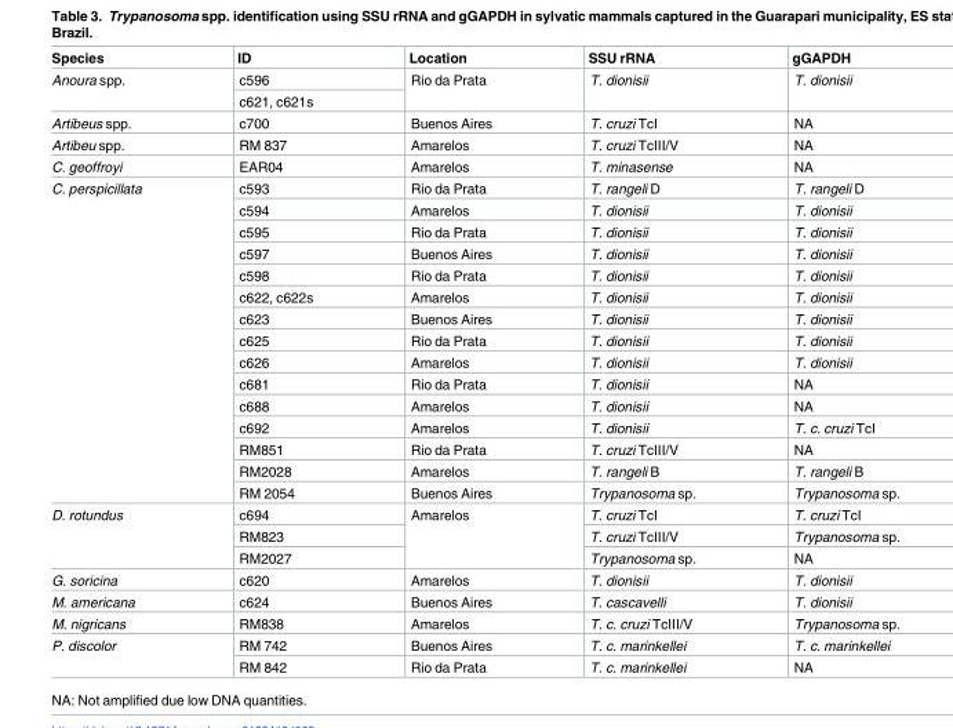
<table><thead><tr><td>Species</td><td>ID</td><td>Location</td><td>SSU rRNA</td><td>gGAPDH</td></tr></thead><tbody><tr><td rowspan="2">Anoura spp.</td><td>c596</td><td rowspan="2">Rio da Prata</td><td rowspan="2">T. dionisii</td><td rowspan="2">T. dionisii</td></tr><tr><td>c621, c621s</td></tr><tr><td>Artibeus spp.</td><td>c700</td><td>Buenos Aires</td><td>T. cruzi TcI</td><td>NA</td></tr><tr><td>Artibeu spp.</td><td>RM 837</td><td>Amarelos</td><td>T. cruzi TcIII/V</td><td>NA</td></tr><tr><td>C. geoffroyi</td><td>EAR04</td><td>Amarelos</td><td>T. minasense</td><td>NA</td></tr><tr><td rowspan="15">C. perspicillata</td><td>c593</td><td>Rio da Prata</td><td>T. rangeli D</td><td>T. rangeli D</td></tr><tr><td>c594</td><td>Amarelos</td><td>T. dionisii</td><td>T. dionisii</td></tr><tr><td>c595</td><td>Rio da Prata</td><td>T. dionisii</td><td>T. dionisii</td></tr><tr><td>c597</td><td>Buenos Aires</td><td>T. dionisii</td><td>T. dionisii</td></tr><tr><td>c598</td><td>Rio da Prata</td><td>T. dionisii</td><td>T. dionisii</td></tr><tr><td>c622, c622s</td><td>Amarelos</td><td>T. dionisii</td><td>T. dionisii</td></tr><tr><td>c623</td><td>Buenos Aires</td><td>T. dionisii</td><td>T. dionisii</td></tr><tr><td>c625</td><td>Rio da Prata</td><td>T. dionisii</td><td>T. dionisii</td></tr><tr><td>c626</td><td>Amarelos</td><td>T. dionisii</td><td>T. dionisii</td></tr><tr><td>c681</td><td>Rio da Prata</td><td>T. dionisii</td><td>NA</td></tr><tr><td>c688</td><td>Amarelos</td><td>T. dionisii</td><td>NA</td></tr><tr><td>c692</td><td>Amarelos</td><td>T. dionisii</td><td>T. c. cruzi TcI</td></tr><tr><td>RM851</td><td>Rio da Prata</td><td>T. cruzi TcIII/V</td><td>NA</td></tr><tr><td>RM2028</td><td>Amarelos</td><td>T. rangeli B</td><td>T. rangeli B</td></tr><tr><td>RM 2054</td><td>Buenos Aires</td><td>Trypanosoma sp.</td><td>Trypanosoma sp.</td></tr><tr><td rowspan="3">D. rotundus</td><td>c694</td><td rowspan="3">Amarelos</td><td>T. cruzi TcI</td><td>T. cruzi TcI</td></tr><tr><td>RM823</td><td>T. cruzi TcIII/V</td><td>Trypanosoma sp.</td></tr><tr><td>RM2027</td><td>Trypanosoma sp.</td><td>NA</td></tr><tr><td>G. soricina</td><td>c620</td><td>Amarelos</td><td>T. dionisii</td><td>T. dionisii</td></tr><tr><td>M. americana</td><td>c624</td><td>Buenos Aires</td><td>T. cascavelli</td><td>T. dionisii</td></tr><tr><td>M. nigricans</td><td>RM838</td><td>Amarelos</td><td>T. c. cruzi TcIII/V</td><td>Trypanosoma sp.</td></tr><tr><td rowspan="2">P. discolor</td><td>RM 742</td><td>Buenos Aires</td><td>T. c. marinkellei</td><td>T. c. marinkellei</td></tr><tr><td>RM 842</td><td>Rio da Prata</td><td>T. c. marinkellei</td><td>NA</td></tr></tbody></table>